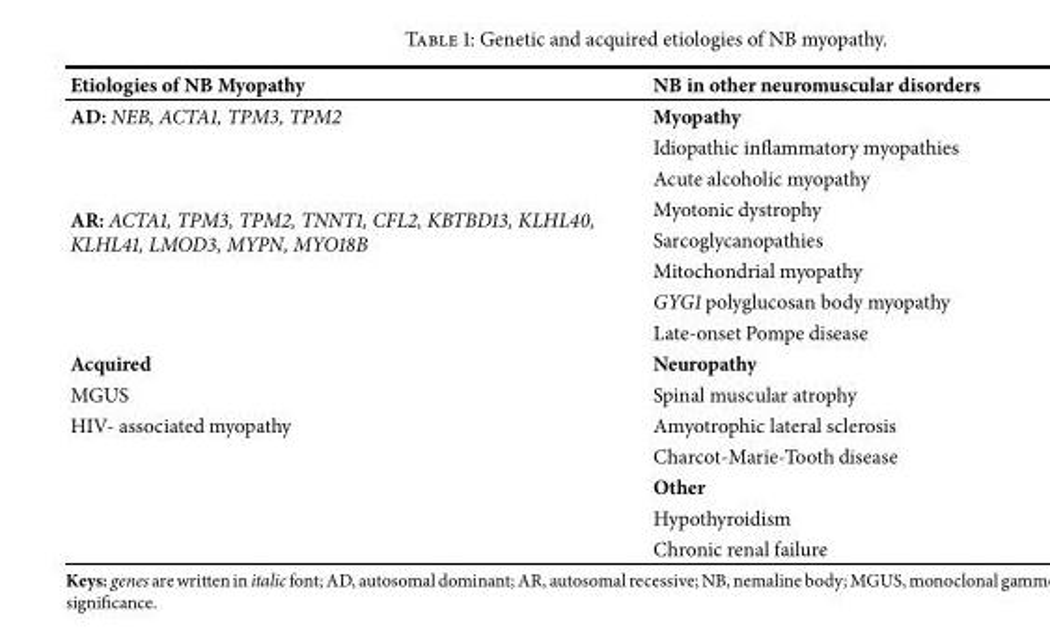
<table><thead><tr><td>Etiologies of NB Myopathy</td><td>NB in other neuromuscular disorders</td></tr></thead><tbody><tr><td>AD: NEB, ACTA1, TPM3, TPM2</td><td>Myopathy</td></tr><tr><td rowspan="7">AR: ACTA1, TPM3, TPM2, TNNT1, CFL2, KBTBD13, KLHL40, KLHL41, LMOD3, MYPN, MYO18B</td><td>Idiopathic inflammatory myopathies</td></tr><tr><td>Acute alcoholic myopathy</td></tr><tr><td>Myotonic dystrophy</td></tr><tr><td>Sarcoglycanopathies</td></tr><tr><td>Mitochondrial myopathy</td></tr><tr><td>GYG1 polyglucosan body myopathy</td></tr><tr><td>Late-onset Pompe disease</td></tr><tr><td>Acquired</td><td>Neuropathy</td></tr><tr><td>MGUS</td><td>Spinal muscular atrophy</td></tr><tr><td rowspan="5">HIV- associated myopathy</td><td>Amyotrophic lateral sclerosis</td></tr><tr><td>Charcot-Marie-Tooth disease</td></tr><tr><td>Other</td></tr><tr><td>Hypothyroidism</td></tr><tr><td>Chronic renal failure</td></tr></tbody></table>